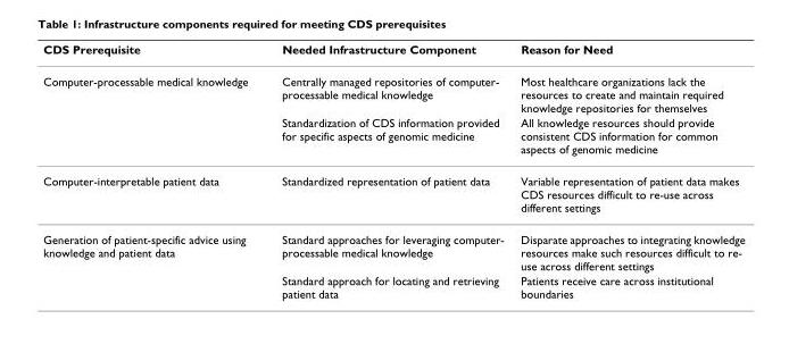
<table><thead><tr><td>CDS Prerequisite</td><td>Needed Infrastructure Component</td><td>Reason for Need</td></tr></thead><tbody><tr><td rowspan="2">Computer-processable medical knowledge</td><td>Centrally managed repositories of computer- processable medical knowledge</td><td>Most healthcare organizations lack the resources to create and maintain required knowledge repositories for themselves</td></tr><tr><td>Standardization of CDS information provided for specific aspects of genomic medicine</td><td>All knowledge resources should provide consistent CDS information for common aspects of genomic medicine</td></tr><tr><td>Computer-interpretable patient data</td><td>Standardized representation of patient data</td><td>Variable representation of patient data makes CDS resources difficult to re-use across different settings</td></tr><tr><td rowspan="2">Generation of patient-specific advice using knowledge and patient data</td><td>Standard approaches for leveraging computer- processable medical knowledge</td><td>Disparate approaches to integrating knowledge resources make such resources difficult to re- use across different settings</td></tr><tr><td>Standard approach for locating and retrieving patient data</td><td>Patients receive care across institutional boundaries</td></tr></tbody></table>